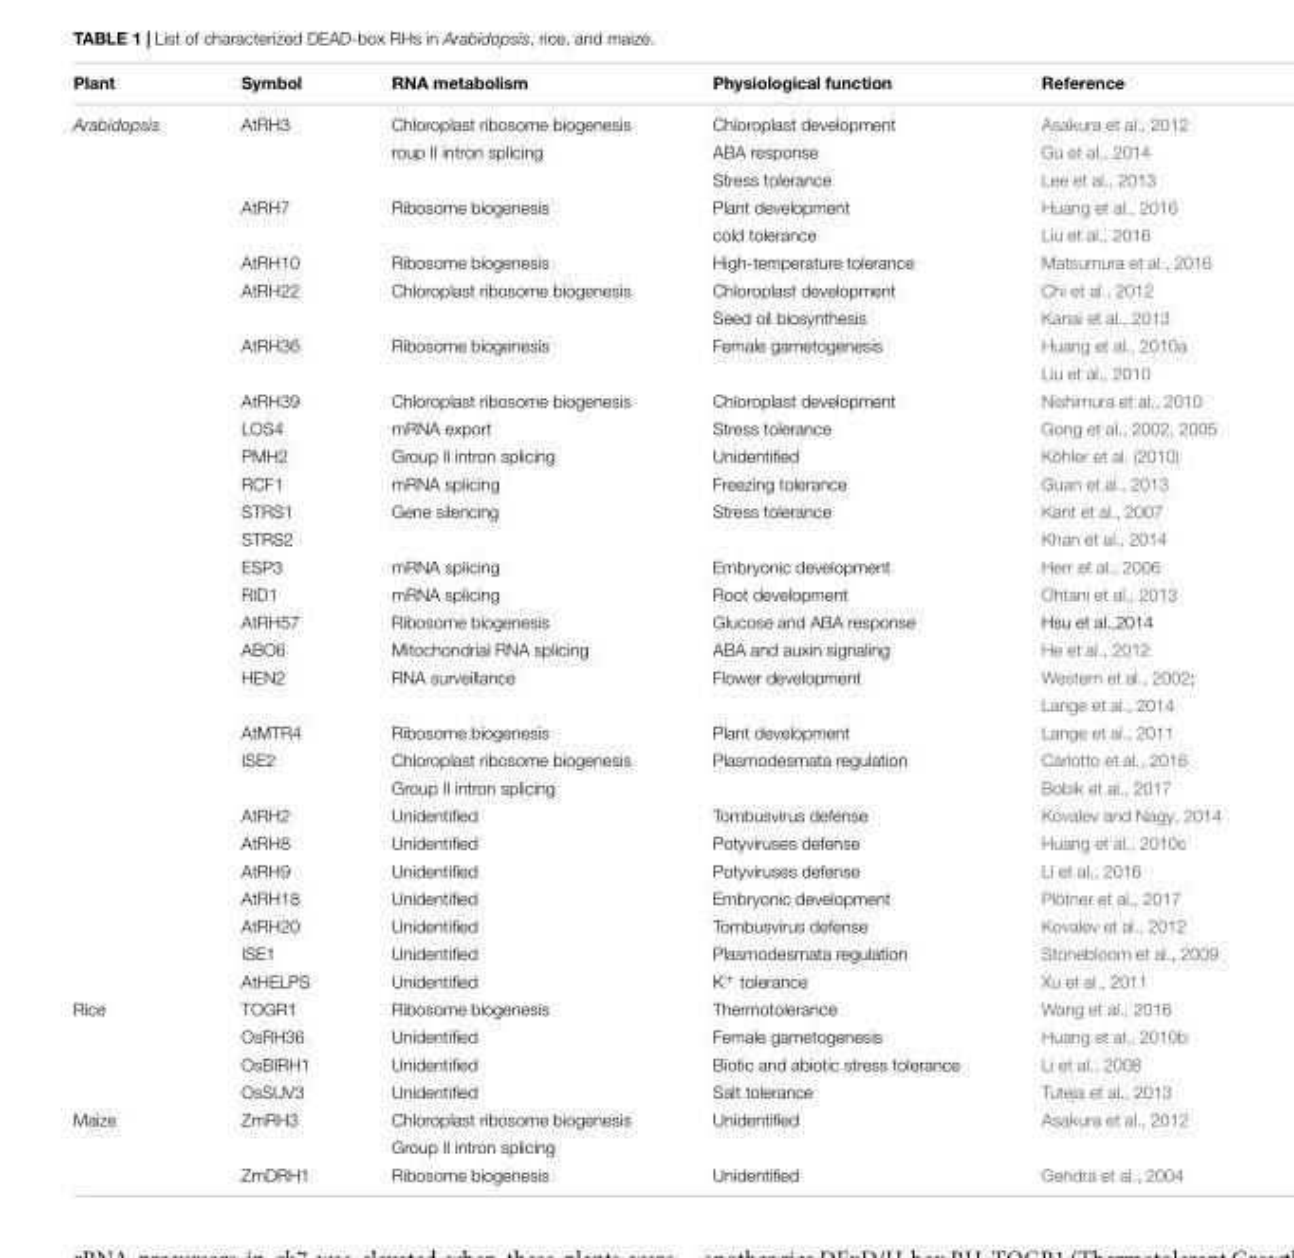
<table><thead><tr><td>Plant</td><td>Symbol</td><td>RNA metabolism</td><td>Physiological function</td><td>Reference</td></tr></thead><tbody><tr><td rowspan="32">Arabidopsis</td><td>AtRH3</td><td>Chloroplast ribosome biogenesis</td><td>Chloroplast development</td><td>Asakura et al., 2012</td></tr><tr><td></td><td>roup II intron splicing</td><td>ABA response</td><td>Gu et al., 2014</td></tr><tr><td></td><td></td><td>Stress tolerance</td><td>Lee et al., 2013</td></tr><tr><td>AtRH7</td><td>Ribosome biogenesis</td><td>Plant development</td><td>Huang et al., 2016</td></tr><tr><td></td><td></td><td>cold tolerance</td><td>Liu et al., 2016</td></tr><tr><td>AtRH10</td><td>Ribosome biogenesis</td><td>High-temperature tolerance</td><td>Matsumura et al., 2016</td></tr><tr><td>AtRH22</td><td>Chloroplast ribosome biogenesis</td><td>Chloroplast development</td><td>Chi et al., 2012</td></tr><tr><td></td><td></td><td>Seed oil biosynthesis</td><td>Kanai et al., 2013</td></tr><tr><td>AtRH36</td><td>Ribosome biogenesis</td><td>Female gametogenesis</td><td>Huang et al., 2010a</td></tr><tr><td></td><td></td><td></td><td>Liu et al., 2010</td></tr><tr><td>AtRH39</td><td>Chloroplast ribosome biogenesis</td><td>Chloroplast development</td><td>Nishimura et al., 2010</td></tr><tr><td>LOS4</td><td>mRNA export</td><td>Stress tolerance</td><td>Gong et al., 2002, 2005</td></tr><tr><td>PMH2</td><td>Group II intron splicing</td><td>Unidentified</td><td>Köhler et al. (2010)</td></tr><tr><td>RCF1</td><td>mRNA splicing</td><td>Freezing tolerance</td><td>Guan et al., 2013</td></tr><tr><td>STRS1</td><td>Gene silencing</td><td>Stress tolerance</td><td>Kant et al., 2007</td></tr><tr><td>STRS2</td><td></td><td></td><td>Khan et al., 2014</td></tr><tr><td>ESP3</td><td>mRNA splicing</td><td>Embryonic development</td><td>Herr et al., 2006</td></tr><tr><td>RID1</td><td>mRNA splicing</td><td>Root development</td><td>Ohtani et al., 2013</td></tr><tr><td>AtRH57</td><td>Ribosome biogenesis</td><td>Glucose and ABA response</td><td>Hsu et al.,2014</td></tr><tr><td>ABO6</td><td>Mitochondrial RNA splicing</td><td>ABA and auxin signaling</td><td>He et al., 2012</td></tr><tr><td>HEN2</td><td>RNA surveillance</td><td>Flower development</td><td>Western et al., 2002;</td></tr><tr><td></td><td></td><td></td><td>Lange et al., 2014</td></tr><tr><td>AtMTR4</td><td>Ribosome biogenesis</td><td>Plant development</td><td>Lange et al., 2011</td></tr><tr><td>ISE2</td><td>Chloroplast ribosome biogenesis</td><td>Plasmodesmata regulation</td><td>Carlotto et al., 2016</td></tr><tr><td></td><td>Group II intron splicing</td><td></td><td>Bobik et al., 2017</td></tr><tr><td>AtRH2</td><td>Unidentified</td><td>Tombusvirus defense</td><td>Kovalev and Nagy, 2014</td></tr><tr><td>AtRH8</td><td>Unidentified</td><td>Potyviruses defense</td><td>Huang et al., 2010c</td></tr><tr><td>AtRH9</td><td>Unidentified</td><td>Potyviruses defense</td><td>Li et al., 2016</td></tr><tr><td>AtRH18</td><td>Unidentified</td><td>Embryonic development</td><td>Plötner et al., 2017</td></tr><tr><td>AtRH20</td><td>Unidentified</td><td>Tombusvirus defense</td><td>Kovalev et al., 2012</td></tr><tr><td>ISE1</td><td>Unidentified</td><td>Plasmodesmata regulation</td><td>Stonebloom et al., 2009</td></tr><tr><td>AtHELPS</td><td>Unidentified</td><td>K<sup>+</sup> tolerance</td><td>Xu et al., 2011</td></tr><tr><td rowspan="4">Rice</td><td>TOGR1</td><td>Ribosome biogenesis</td><td>Thermotolerance</td><td>Wang et al., 2016</td></tr><tr><td>OsRH36</td><td>Unidentified</td><td>Female gametogenesis</td><td>Huang et al., 2010b</td></tr><tr><td>OsBIRH1</td><td>Unidentified</td><td>Biotic and abiotic stress tolerance</td><td>Li et al., 2008</td></tr><tr><td>OsSUV3</td><td>Unidentified</td><td>Salt tolerance</td><td>Tuteja et al., 2013</td></tr><tr><td rowspan="3">Maize</td><td>ZmRH3</td><td>Chloroplast ribosome biogenesis</td><td>Unidentified</td><td>Asakura et al., 2012</td></tr><tr><td></td><td>Group II intron splicing</td><td></td><td></td></tr><tr><td>ZmDRH1</td><td>Ribosome biogenesis</td><td>Unidentified</td><td>Gendra et al., 2004</td></tr></tbody></table>